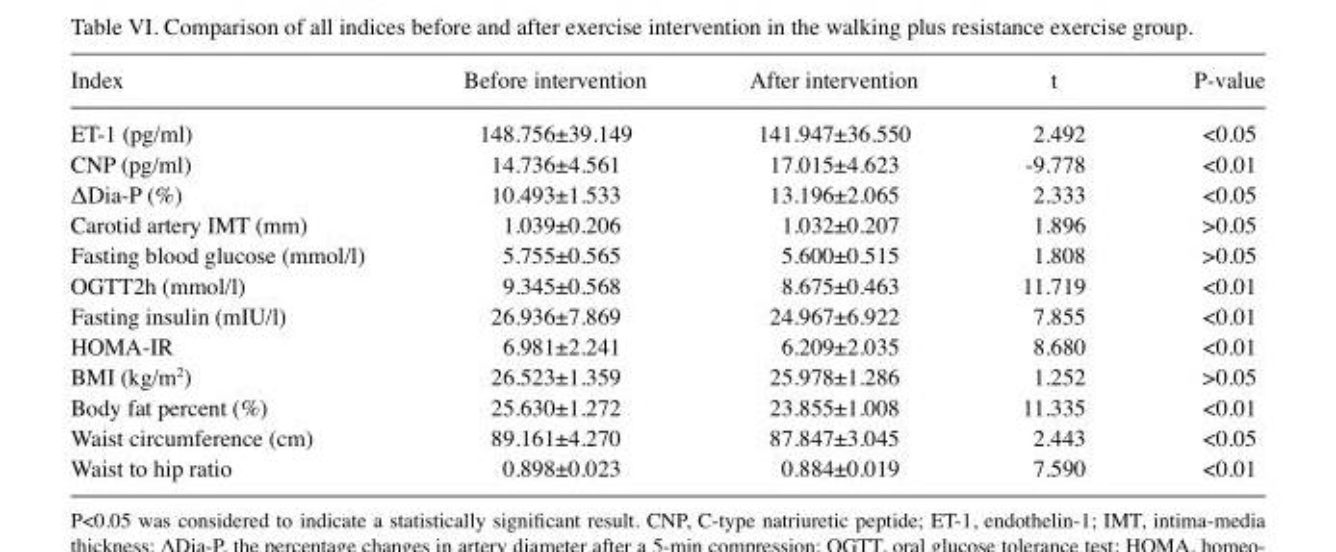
<table><thead><tr><td>Index</td><td>Before intervention</td><td>After intervention</td><td>t</td><td>P-value</td></tr></thead><tbody><tr><td>ET-1 (pg/ml)</td><td>148.756±39.149</td><td>141.947±36.550</td><td>2.492</td><td>&lt;0.05</td></tr><tr><td>CNP (pg/ml)</td><td>14.736±4.561</td><td>17.015±4.623</td><td>-9.778</td><td>&lt;0.01</td></tr><tr><td>ΔDia-P (%)</td><td>10.493±1.533</td><td>13.196±2.065</td><td>2.333</td><td>&lt;0.05</td></tr><tr><td>Carotid artery IMT (mm)</td><td>1.039±0.206</td><td>1.032±0.207</td><td>1.896</td><td>&gt;0.05</td></tr><tr><td>Fasting blood glucose (mmol/l)</td><td>5.755±0.565</td><td>5.600±0.515</td><td>1.808</td><td>&gt;0.05</td></tr><tr><td>OGTT2h (mmol/l)</td><td>9.345±0.568</td><td>8.675±0.463</td><td>11.719</td><td>&lt;0.01</td></tr><tr><td>Fasting insulin (mIU/l)</td><td>26.936±7.869</td><td>24.967±6.922</td><td>7.855</td><td>&lt;0.01</td></tr><tr><td>HOMA-IR</td><td>6.981±2.241</td><td>6.209±2.035</td><td>8.680</td><td>&lt;0.01</td></tr><tr><td>BMI (kg/m<sup>2</sup>)</td><td>26.523±1.359</td><td>25.978±1.286</td><td>1.252</td><td>&gt;0.05</td></tr><tr><td>Body fat percent (﹪)</td><td>25.630±1.272</td><td>23.855±1.008</td><td>11.335</td><td>&lt;0.01</td></tr><tr><td>Waist circumference (cm)</td><td>89.161±4.270</td><td>87.847±3.045</td><td>2.443</td><td>&lt;0.05</td></tr><tr><td>Waist to hip ratio</td><td>0.898±0.023</td><td>0.884±0.019</td><td>7.590</td><td>&lt;0.01</td></tr></tbody></table>